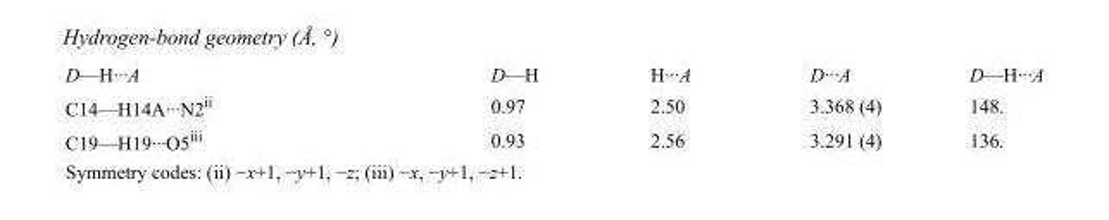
<table><tbody><tr><td>D—H···A</td><td>D—H</td><td>H···A</td><td>D···A</td><td>D—H···A</td></tr><tr><td>C14—H14A···N2<sup>ii</sup></td><td>0.97</td><td>2.50</td><td>3.368 (4)</td><td>148.</td></tr><tr><td>C19—H19···O5<sup>iii</sup></td><td>0.93</td><td>2.56</td><td>3.291 (4)</td><td>136.</td></tr></tbody></table>